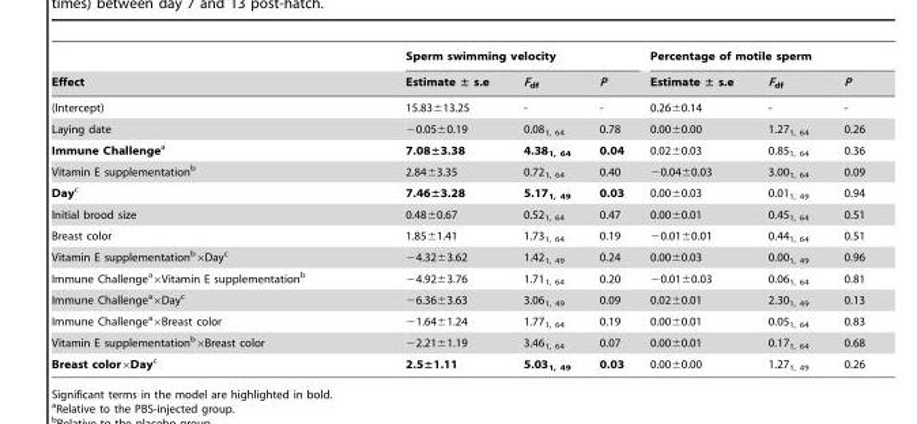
<table><thead><tr><td rowspan="2">Effect</td><td colspan="3">Sperm swimming velocity</td><td colspan="3">Percentage of motile sperm</td></tr><tr><td>Estimate ± s.e</td><td>F<sub>df</sub></td><td>P</td><td>Estimate ± s.e</td><td>F<sub>df</sub></td><td>P</td></tr></thead><tbody><tr><td>(Intercept)</td><td>15.83±13.25</td><td>-</td><td>-</td><td>0.26±0.14</td><td>-</td><td>-</td></tr><tr><td>Laying date</td><td>−0.05±0.19</td><td>0.08<sub>1, 64</sub></td><td>0.78</td><td>0.00±0.00</td><td>1.27<sub>1, 64</sub></td><td>0.26</td></tr><tr><td>Immune Challengea</td><td>7.08±3.38</td><td>4.38<sub>1, 64</sub></td><td>0.04</td><td>0.02±0.03</td><td>0.85<sub>1, 64</sub></td><td>0.36</td></tr><tr><td>Vitamin E supplementation<sup>b</sup></td><td>2.84±3.35</td><td>0.72<sub>1, 64</sub></td><td>0.40</td><td>−0.04±0.03</td><td>3.00<sub>1, 64</sub></td><td>0.09</td></tr><tr><td>Dayc</td><td>7.46±3.28</td><td>5.17<sub>1, 49</sub></td><td>0.03</td><td>0.00±0.03</td><td>0.01<sub>1, 49</sub></td><td>0.94</td></tr><tr><td>Initial brood size</td><td>0.48±0.67</td><td>0.52<sub>1, 64</sub></td><td>0.47</td><td>0.00±0.01</td><td>0.45<sub>1, 64</sub></td><td>0.51</td></tr><tr><td>Breast color</td><td>1.85±1.41</td><td>1.73<sub>1, 64</sub></td><td>0.19</td><td>−0.01±0.01</td><td>0.44<sub>1, 64</sub></td><td>0.51</td></tr><tr><td>Vitamin E supplementation<sup>b</sup>×Day<sup>c</sup></td><td>−4.32±3.62</td><td>1.42<sub>1, 49</sub></td><td>0.24</td><td>0.00±0.03</td><td>0.00<sub>1, 49</sub></td><td>0.96</td></tr><tr><td>Immune Challenge<sup>a</sup>×Vitamin E supplementation<sup>b</sup></td><td>−4.92±3.76</td><td>1.71<sub>1, 64</sub></td><td>0.20</td><td>−0.01±0.03</td><td>0.06<sub>1, 64</sub></td><td>0.81</td></tr><tr><td>Immune Challenge<sup>a</sup>×Day<sup>c</sup></td><td>−6.36±3.63</td><td>3.06<sub>1, 49</sub></td><td>0.09</td><td>0.02±0.01</td><td>2.30<sub>1, 49</sub></td><td>0.13</td></tr><tr><td>Immune Challenge<sup>a</sup>×Breast color</td><td>−1.64±1.24</td><td>1.77<sub>1, 64</sub></td><td>0.19</td><td>0.00±0.01</td><td>0.05<sub>1, 64</sub></td><td>0.83</td></tr><tr><td>Vitamin E supplementation<sup>b</sup>×Breast color</td><td>−2.21±1.19</td><td>3.46<sub>1, 64</sub></td><td>0.07</td><td>0.00±0.01</td><td>0.17<sub>1, 64</sub></td><td>0.68</td></tr><tr><td>Breast color×Dayc</td><td>2.5±1.11</td><td>5.03<sub>1, 49</sub></td><td>0.03</td><td>0.00±0.00</td><td>1.27<sub>1, 49</sub></td><td>0.26</td></tr></tbody></table>